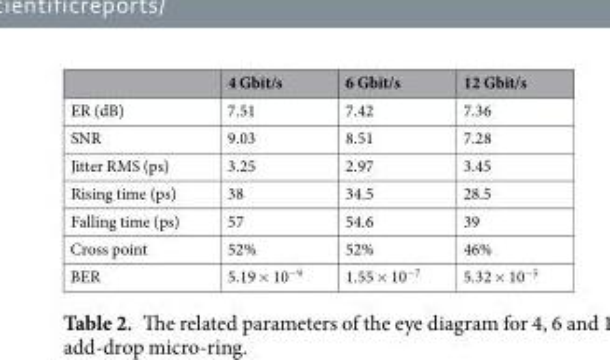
<table><thead><tr><td></td><td>4 Gbit/s</td><td>6 Gbit/s</td><td>12 Gbit/s</td></tr></thead><tbody><tr><td>ER (dB)</td><td>7.51</td><td>7.42</td><td>7.36</td></tr><tr><td>SNR</td><td>9.03</td><td>8.51</td><td>7.28</td></tr><tr><td>Jitter RMS (ps)</td><td>3.25</td><td>2.97</td><td>3.45</td></tr><tr><td>Rising time (ps)</td><td>38</td><td>34.5</td><td>28.5</td></tr><tr><td>Falling time (ps)</td><td>57</td><td>54.6</td><td>39</td></tr><tr><td>Cross point</td><td>52%</td><td>52%</td><td>46%</td></tr><tr><td>BER</td><td>5.19 × 10<sup>−9</sup></td><td>1.55 × 10<sup>−7</sup></td><td>5.32 × 10<sup>−5</sup></td></tr></tbody></table>